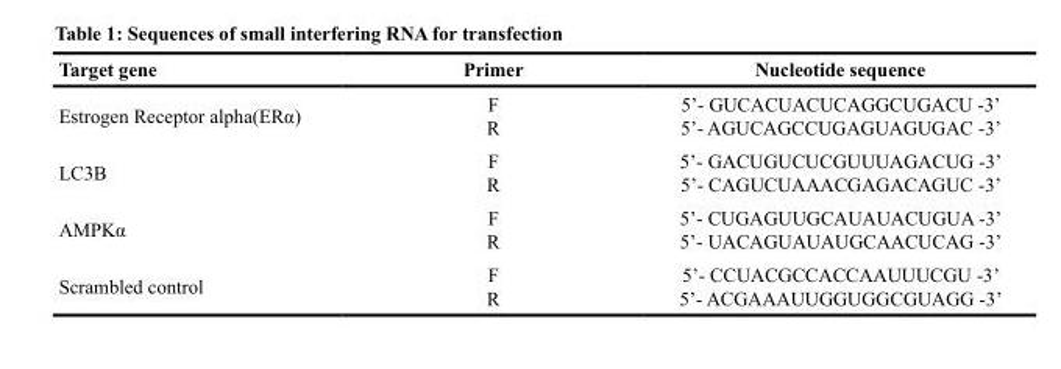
<table><thead><tr><td>Target gene</td><td>Primer</td><td>Nucleotide sequence</td></tr></thead><tbody><tr><td>Estrogen Receptor alpha(ERα)</td><td>F R</td><td>5’- GUCACUACUCAGGCUGACU -3’ 5’- AGUCAGCCUGAGUAGUGAC -3’</td></tr><tr><td>LC3B</td><td>F R</td><td>5’- GACUGUCUCGUUUAGACUG -3’ 5’- CAGUCUAAACGAGACAGUC -3’</td></tr><tr><td>AMPKα</td><td>F R</td><td>5’- CUGAGUUGCAUAUACUGUA -3’ 5’- UACAGUAUAUGCAACUCAG -3’</td></tr><tr><td>Scrambled control</td><td>F R</td><td>5’- CCUACGCCACCAAUUUCGU -3’ 5’- ACGAAAUUGGUGGCGUAGG -3’</td></tr></tbody></table>